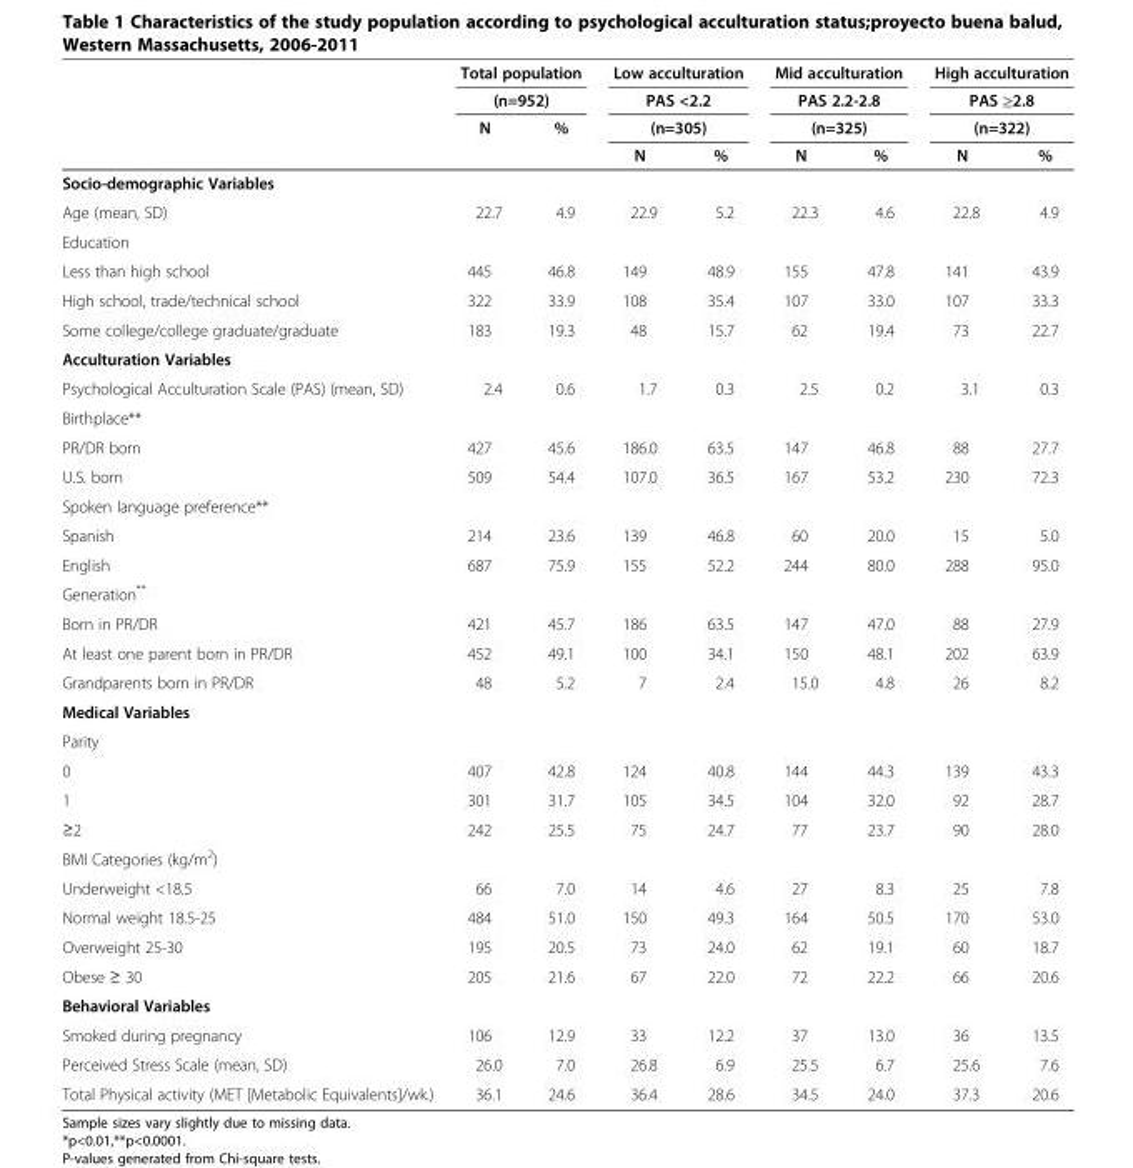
<table><thead><tr><td rowspan="4"></td><td rowspan="2" colspan="2">Total population (n=952)</td><td rowspan="3" colspan="2">Low acculturation PAS &lt;2.2 (n=305)</td><td rowspan="3" colspan="2">Mid acculturation PAS 2.2-2.8 (n=325)</td><td rowspan="3" colspan="2">High acculturation PAS ≥2.8 (n=322)</td></tr><tr></tr><tr><td rowspan="2">N</td><td rowspan="2">%</td></tr><tr><td>N</td><td>%</td><td>N</td><td>%</td><td>N</td><td>%</td></tr></thead><tbody><tr><td colspan="9">Socio-demographic Variables</td></tr><tr><td>Age (mean, SD)</td><td>22.7</td><td>4.9</td><td>22.9</td><td>5.2</td><td>22.3</td><td>4.6</td><td>22.8</td><td>4.9</td></tr><tr><td colspan="9">Education</td></tr><tr><td>Less than high school</td><td>445</td><td>46.8</td><td>149</td><td>48.9</td><td>155</td><td>47.8</td><td>141</td><td>43.9</td></tr><tr><td>High school, trade/technical school</td><td>322</td><td>33.9</td><td>108</td><td>35.4</td><td>107</td><td>33.0</td><td>107</td><td>33.3</td></tr><tr><td>Some college/college graduate/graduate</td><td>183</td><td>19.3</td><td>48</td><td>15.7</td><td>62</td><td>19.4</td><td>73</td><td>22.7</td></tr><tr><td colspan="9">Acculturation Variables</td></tr><tr><td>Psychological Acculturation Scale (PAS) (mean, SD)</td><td>2.4</td><td>0.6</td><td>1.7</td><td>0.3</td><td>2.5</td><td>0.2</td><td>3.1</td><td>0.3</td></tr><tr><td colspan="9">Birthplace**</td></tr><tr><td>PR/DR born</td><td>427</td><td>45.6</td><td>186.0</td><td>63.5</td><td>147</td><td>46.8</td><td>88</td><td>27.7</td></tr><tr><td>U.S. born</td><td>509</td><td>54.4</td><td>107.0</td><td>36.5</td><td>167</td><td>53.2</td><td>230</td><td>72.3</td></tr><tr><td colspan="9">Spoken language preference**</td></tr><tr><td>Spanish</td><td>214</td><td>23.6</td><td>139</td><td>46.8</td><td>60</td><td>20.0</td><td>15</td><td>5.0</td></tr><tr><td>English</td><td>687</td><td>75.9</td><td>155</td><td>52.2</td><td>244</td><td>80.0</td><td>288</td><td>95.0</td></tr><tr><td colspan="9">Generation**</td></tr><tr><td>Born in PR/DR</td><td>421</td><td>45.7</td><td>186</td><td>63.5</td><td>147</td><td>47.0</td><td>88</td><td>27.9</td></tr><tr><td>At least one parent born in PR/DR</td><td>452</td><td>49.1</td><td>100</td><td>34.1</td><td>150</td><td>48.1</td><td>202</td><td>63.9</td></tr><tr><td>Grandparents born in PR/DR</td><td>48</td><td>5.2</td><td>7</td><td>2.4</td><td>15.0</td><td>4.8</td><td>26</td><td>8.2</td></tr><tr><td colspan="9">Medical Variables</td></tr><tr><td colspan="9">Parity</td></tr><tr><td>0</td><td>407</td><td>42.8</td><td>124</td><td>40.8</td><td>144</td><td>44.3</td><td>139</td><td>43.3</td></tr><tr><td>1</td><td>301</td><td>31.7</td><td>105</td><td>34.5</td><td>104</td><td>32.0</td><td>92</td><td>28.7</td></tr><tr><td>≥2</td><td>242</td><td>25.5</td><td>75</td><td>24.7</td><td>77</td><td>23.7</td><td>90</td><td>28.0</td></tr><tr><td colspan="9">BMI Categories (kg/m<sup>2</sup>)</td></tr><tr><td>Underweight &lt;18.5</td><td>66</td><td>7.0</td><td>14</td><td>4.6</td><td>27</td><td>8.3</td><td>25</td><td>7.8</td></tr><tr><td>Normal weight 18.5-25</td><td>484</td><td>51.0</td><td>150</td><td>49.3</td><td>164</td><td>50.5</td><td>170</td><td>53.0</td></tr><tr><td>Overweight 25-30</td><td>195</td><td>20.5</td><td>73</td><td>24.0</td><td>62</td><td>19.1</td><td>60</td><td>18.7</td></tr><tr><td>Obese ≥ 30</td><td>205</td><td>21.6</td><td>67</td><td>22.0</td><td>72</td><td>22.2</td><td>66</td><td>20.6</td></tr><tr><td colspan="9">Behavioral Variables</td></tr><tr><td>Smoked during pregnancy</td><td>106</td><td>12.9</td><td>33</td><td>12.2</td><td>37</td><td>13.0</td><td>36</td><td>13.5</td></tr><tr><td>Perceived Stress Scale (mean, SD)</td><td>26.0</td><td>7.0</td><td>26.8</td><td>6.9</td><td>25.5</td><td>6.7</td><td>25.6</td><td>7.6</td></tr><tr><td>Total Physical activity (MET [Metabolic Equivalents]/wk.)</td><td>36.1</td><td>24.6</td><td>36.4</td><td>28.6</td><td>34.5</td><td>24.0</td><td>37.3</td><td>20.6</td></tr></tbody></table>